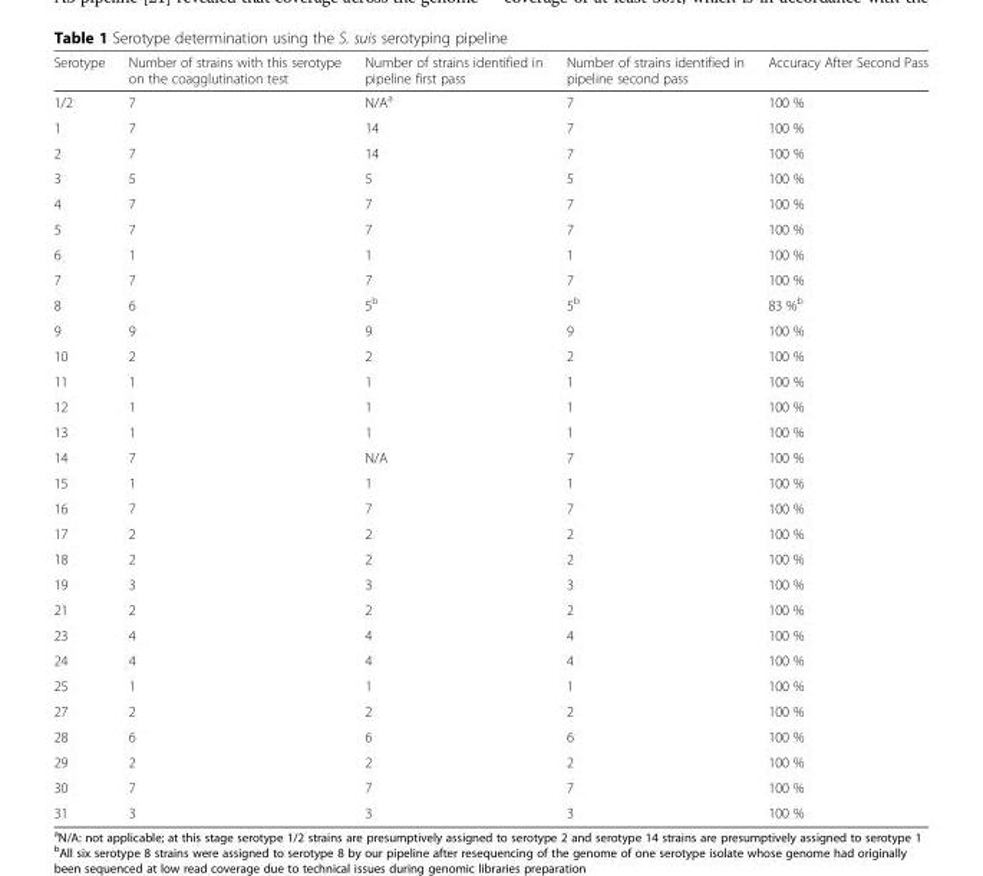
<table><thead><tr><td>Serotype</td><td>Number of strains with this serotype on the coagglutination test</td><td>Number of strains identified in pipeline first pass</td><td>Number of strains identified in pipeline second pass</td><td>Accuracy After Second Pass</td></tr></thead><tbody><tr><td>1/2</td><td>7</td><td>N/A<sup>a</sup></td><td>7</td><td>100 %</td></tr><tr><td>1</td><td>7</td><td>14</td><td>7</td><td>100 %</td></tr><tr><td>2</td><td>7</td><td>14</td><td>7</td><td>100 %</td></tr><tr><td>3</td><td>5</td><td>5</td><td>5</td><td>100 %</td></tr><tr><td>4</td><td>7</td><td>7</td><td>7</td><td>100 %</td></tr><tr><td>5</td><td>7</td><td>7</td><td>7</td><td>100 %</td></tr><tr><td>6</td><td>1</td><td>1</td><td>1</td><td>100 %</td></tr><tr><td>7</td><td>7</td><td>7</td><td>7</td><td>100 %</td></tr><tr><td>8</td><td>6</td><td>5<sup>b</sup></td><td>5<sup>b</sup></td><td>83 %<sup>b</sup></td></tr><tr><td>9</td><td>9</td><td>9</td><td>9</td><td>100 %</td></tr><tr><td>10</td><td>2</td><td>2</td><td>2</td><td>100 %</td></tr><tr><td>11</td><td>1</td><td>1</td><td>1</td><td>100 %</td></tr><tr><td>12</td><td>1</td><td>1</td><td>1</td><td>100 %</td></tr><tr><td>13</td><td>1</td><td>1</td><td>1</td><td>100 %</td></tr><tr><td>14</td><td>7</td><td>N/A</td><td>7</td><td>100 %</td></tr><tr><td>15</td><td>1</td><td>1</td><td>1</td><td>100 %</td></tr><tr><td>16</td><td>7</td><td>7</td><td>7</td><td>100 %</td></tr><tr><td>17</td><td>2</td><td>2</td><td>2</td><td>100 %</td></tr><tr><td>18</td><td>2</td><td>2</td><td>2</td><td>100 %</td></tr><tr><td>19</td><td>3</td><td>3</td><td>3</td><td>100 %</td></tr><tr><td>21</td><td>2</td><td>2</td><td>2</td><td>100 %</td></tr><tr><td>23</td><td>4</td><td>4</td><td>4</td><td>100 %</td></tr><tr><td>24</td><td>4</td><td>4</td><td>4</td><td>100 %</td></tr><tr><td>25</td><td>1</td><td>1</td><td>1</td><td>100 %</td></tr><tr><td>27</td><td>2</td><td>2</td><td>2</td><td>100 %</td></tr><tr><td>28</td><td>6</td><td>6</td><td>6</td><td>100 %</td></tr><tr><td>29</td><td>2</td><td>2</td><td>2</td><td>100 %</td></tr><tr><td>30</td><td>7</td><td>7</td><td>7</td><td>100 %</td></tr><tr><td>31</td><td>3</td><td>3</td><td>3</td><td>100 %</td></tr></tbody></table>